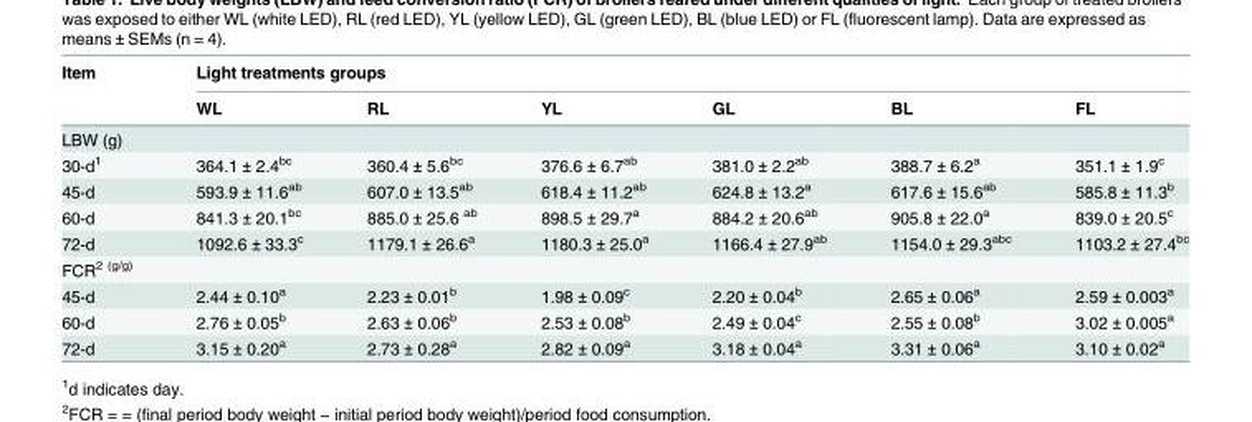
<table><thead><tr><td rowspan="2">Item</td><td colspan="6">Light treatments groups</td></tr><tr><td>WL</td><td>RL</td><td>YL</td><td>GL</td><td>BL</td><td>FL</td></tr></thead><tbody><tr><td colspan="7">LBW (g)</td></tr><tr><td>30-d<sup>1</sup></td><td>364.1 ± 2.4<sup>bc</sup></td><td>360.4 ± 5.6<sup>bc</sup></td><td>376.6 ± 6.7<sup>ab</sup></td><td>381.0 ± 2.2<sup>ab</sup></td><td>388.7 ± 6.2<sup>a</sup></td><td>351.1 ± 1.9<sup>c</sup></td></tr><tr><td>45-d</td><td>593.9 ± 11.6<sup>ab</sup></td><td>607.0 ± 13.5<sup>ab</sup></td><td>618.4 ± 11.2<sup>ab</sup></td><td>624.8 ± 13.2<sup>a</sup></td><td>617.6 ± 15.6<sup>ab</sup></td><td>585.8 ± 11.3<sup>b</sup></td></tr><tr><td>60-d</td><td>841.3 ± 20.1<sup>bc</sup></td><td>885.0 ± 25.6 <sup>ab</sup></td><td>898.5 ± 29.7<sup>a</sup></td><td>884.2 ± 20.6<sup>ab</sup></td><td>905.8 ± 22.0<sup>a</sup></td><td>839.0 ± 20.5<sup>c</sup></td></tr><tr><td>72-d</td><td>1092.6 ± 33.3<sup>c</sup></td><td>1179.1 ± 26.6<sup>a</sup></td><td>1180.3 ± 25.0<sup>a</sup></td><td>1166.4 ± 27.9<sup>ab</sup></td><td>1154.0 ± 29.3<sup>abc</sup></td><td>1103.2 ± 27.4<sup>bc</sup></td></tr><tr><td colspan="7">FCR<sup>2 (g/g)</sup></td></tr><tr><td>45-d</td><td>2.44 ± 0.10<sup>a</sup></td><td>2.23 ± 0.01<sup>b</sup></td><td>1.98 ± 0.09<sup>c</sup></td><td>2.20 ± 0.04<sup>b</sup></td><td>2.65 ± 0.06<sup>a</sup></td><td>2.59 ± 0.003<sup>a</sup></td></tr><tr><td>60-d</td><td>2.76 ± 0.05<sup>b</sup></td><td>2.63 ± 0.06<sup>b</sup></td><td>2.53 ± 0.08<sup>b</sup></td><td>2.49 ± 0.04<sup>c</sup></td><td>2.55 ± 0.08<sup>b</sup></td><td>3.02 ± 0.005<sup>a</sup></td></tr><tr><td>72-d</td><td>3.15 ± 0.20<sup>a</sup></td><td>2.73 ± 0.28<sup>a</sup></td><td>2.82 ± 0.09<sup>a</sup></td><td>3.18 ± 0.04<sup>a</sup></td><td>3.31 ± 0.06<sup>a</sup></td><td>3.10 ± 0.02<sup>a</sup></td></tr></tbody></table>